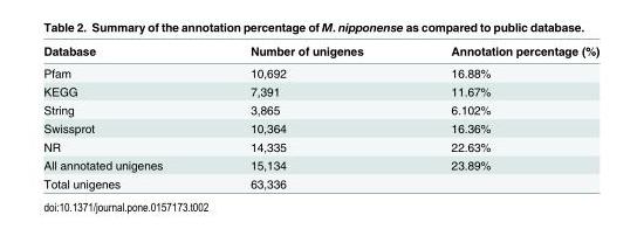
<table><thead><tr><td>Database</td><td>Number of unigenes</td><td>Annotation percentage (%)</td></tr></thead><tbody><tr><td>Pfam</td><td>10,692</td><td>16.88%</td></tr><tr><td>KEGG</td><td>7,391</td><td>11.67%</td></tr><tr><td>String</td><td>3,865</td><td>6.102%</td></tr><tr><td>Swissprot</td><td>10,364</td><td>16.36%</td></tr><tr><td>NR</td><td>14,335</td><td>22.63%</td></tr><tr><td>All annotated unigenes</td><td>15,134</td><td>23.89%</td></tr><tr><td>Total unigenes</td><td>63,336</td><td></td></tr></tbody></table>